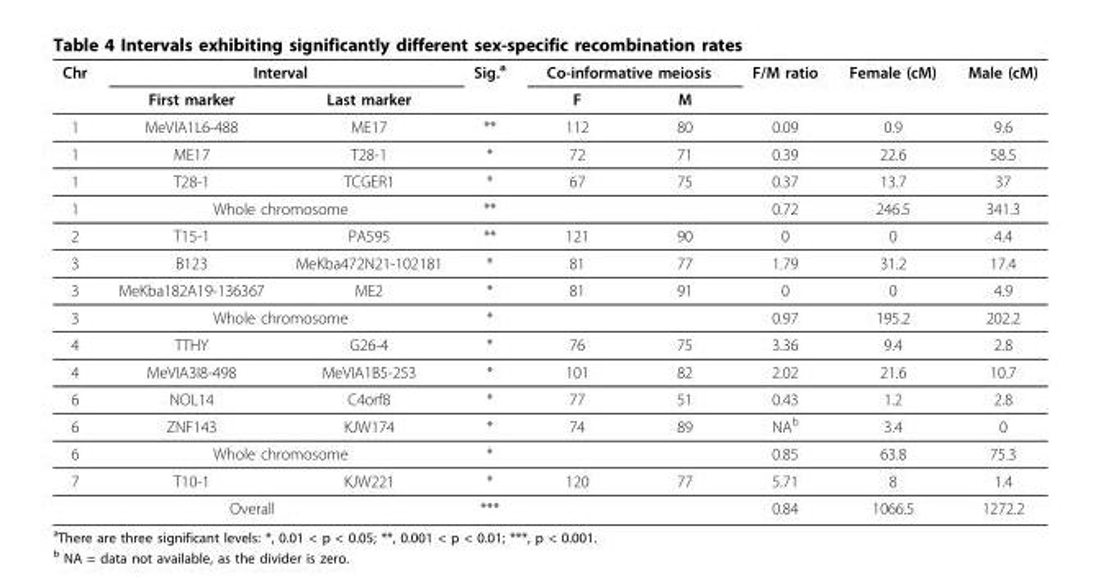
<table><thead><tr><td rowspan="2">Chr</td><td colspan="2">Interval</td><td rowspan="2">Sig.a</td><td colspan="2">Co-informative meiosis</td><td rowspan="2">F/M ratio</td><td rowspan="2">Female (cM)</td><td rowspan="2">Male (cM)</td></tr><tr><td>First marker</td><td>Last marker</td><td>F</td><td>M</td></tr></thead><tbody><tr><td>1</td><td>MeVIA1L6-488</td><td>ME17</td><td>**</td><td>112</td><td>80</td><td>0.09</td><td>0.9</td><td>9.6</td></tr><tr><td>1</td><td>ME17</td><td>T28-1</td><td>*</td><td>72</td><td>71</td><td>0.39</td><td>22.6</td><td>58.5</td></tr><tr><td>1</td><td>T28-1</td><td>TCGER1</td><td>*</td><td>67</td><td>75</td><td>0.37</td><td>13.7</td><td>37</td></tr><tr><td>1</td><td colspan="2">Whole chromosome</td><td>**</td><td></td><td></td><td>0.72</td><td>246.5</td><td>341.3</td></tr><tr><td>2</td><td>T15-1</td><td>PA595</td><td>**</td><td>121</td><td>90</td><td>0</td><td>0</td><td>4.4</td></tr><tr><td>3</td><td>B123</td><td>MeKba472N21-102181</td><td>*</td><td>81</td><td>77</td><td>1.79</td><td>31.2</td><td>17.4</td></tr><tr><td>3</td><td>MeKba182A19-136367</td><td>ME2</td><td>*</td><td>81</td><td>91</td><td>0</td><td>0</td><td>4.9</td></tr><tr><td>3</td><td colspan="2">Whole chromosome</td><td>*</td><td></td><td></td><td>0.97</td><td>195.2</td><td>202.2</td></tr><tr><td>4</td><td>TTHY</td><td>G26-4</td><td>*</td><td>76</td><td>75</td><td>3.36</td><td>9.4</td><td>2.8</td></tr><tr><td>4</td><td>MeVIA3I8-498</td><td>MeVIA1B5-253</td><td>*</td><td>101</td><td>82</td><td>2.02</td><td>21.6</td><td>10.7</td></tr><tr><td>6</td><td>NOL14</td><td>C4orf8</td><td>*</td><td>77</td><td>51</td><td>0.43</td><td>1.2</td><td>2.8</td></tr><tr><td>6</td><td>ZNF143</td><td>KJW174</td><td>*</td><td>74</td><td>89</td><td>NAb</td><td>3.4</td><td>0</td></tr><tr><td>6</td><td colspan="2">Whole chromosome</td><td>*</td><td></td><td></td><td>0.85</td><td>63.8</td><td>75.3</td></tr><tr><td>7</td><td>T10-1</td><td>KJW221</td><td>*</td><td>120</td><td>77</td><td>5.71</td><td>8</td><td>1.4</td></tr><tr><td colspan="3">Overall</td><td>***</td><td></td><td></td><td>0.84</td><td>1066.5</td><td>1272.2</td></tr></tbody></table>